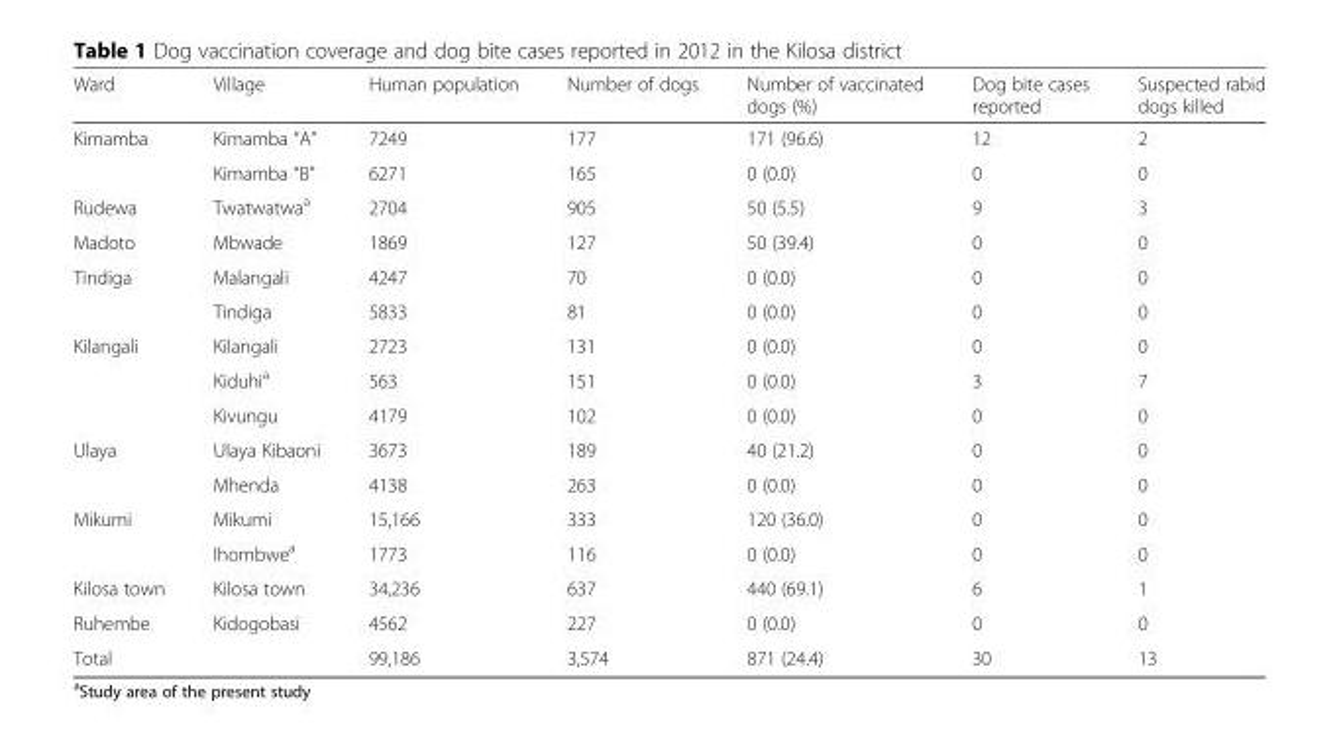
<table><thead><tr><td>Ward</td><td>Village</td><td>Human population</td><td>Number of dogs</td><td>Number of vaccinated dogs (%)</td><td>Dog bite cases reported</td><td>Suspected rabid dogs killed</td></tr></thead><tbody><tr><td rowspan="2">Kimamba</td><td>Kimamba “A”</td><td>7249</td><td>177</td><td>171 (96.6)</td><td>12</td><td>2</td></tr><tr><td>Kimamba “B”</td><td>6271</td><td>165</td><td>0 (0.0)</td><td>0</td><td>0</td></tr><tr><td>Rudewa</td><td>Twatwatwa<sup>a</sup></td><td>2704</td><td>905</td><td>50 (5.5)</td><td>9</td><td>3</td></tr><tr><td>Madoto</td><td>Mbwade</td><td>1869</td><td>127</td><td>50 (39.4)</td><td>0</td><td>0</td></tr><tr><td rowspan="2">Tindiga</td><td>Malangali</td><td>4247</td><td>70</td><td>0 (0.0)</td><td>0</td><td>0</td></tr><tr><td>Tindiga</td><td>5833</td><td>81</td><td>0 (0.0)</td><td>0</td><td>0</td></tr><tr><td rowspan="3">Kilangali</td><td>Kilangali</td><td>2723</td><td>131</td><td>0 (0.0)</td><td>0</td><td>0</td></tr><tr><td>Kiduhi<sup>a</sup></td><td>563</td><td>151</td><td>0 (0.0)</td><td>3</td><td>7</td></tr><tr><td>Kivungu</td><td>4179</td><td>102</td><td>0 (0.0)</td><td>0</td><td>0</td></tr><tr><td rowspan="2">Ulaya</td><td>Ulaya Kibaoni</td><td>3673</td><td>189</td><td>40 (21.2)</td><td>0</td><td>0</td></tr><tr><td>Mhenda</td><td>4138</td><td>263</td><td>0 (0.0)</td><td>0</td><td>0</td></tr><tr><td rowspan="2">Mikumi</td><td>Mikumi</td><td>15,166</td><td>333</td><td>120 (36.0)</td><td>0</td><td>0</td></tr><tr><td>Ihombwe<sup>a</sup></td><td>1773</td><td>116</td><td>0 (0.0)</td><td>0</td><td>0</td></tr><tr><td>Kilosa town</td><td>Kilosa town</td><td>34,236</td><td>637</td><td>440 (69.1)</td><td>6</td><td>1</td></tr><tr><td>Ruhembe</td><td>Kidogobasi</td><td>4562</td><td>227</td><td>0 (0.0)</td><td>0</td><td>0</td></tr><tr><td colspan="2">Total</td><td>99,186</td><td>3,574</td><td>871 (24.4)</td><td>30</td><td>13</td></tr></tbody></table>